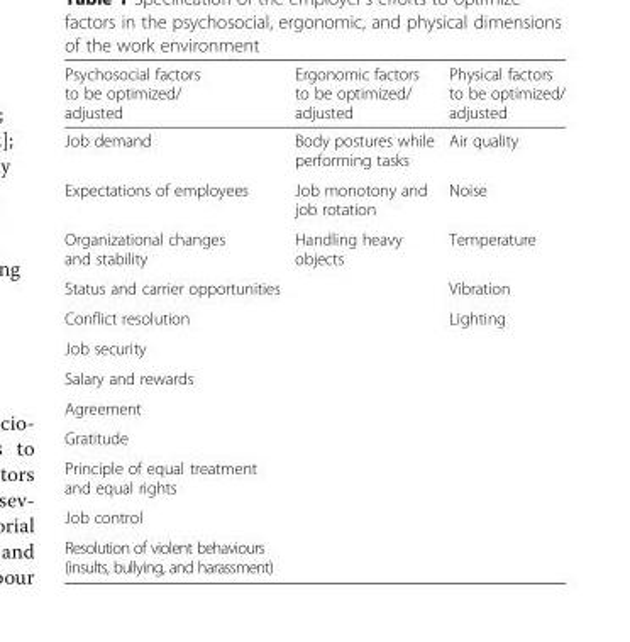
<table><thead><tr><td>Psychosocial factors to be optimized/ adjusted</td><td>Ergonomic factors to be optimized/ adjusted</td><td>Physical factors to be optimized/ adjusted</td></tr></thead><tbody><tr><td>Job demand</td><td>Body postures while performing tasks</td><td>Air quality</td></tr><tr><td>Expectations of employees</td><td>Job monotony and job rotation</td><td>Noise</td></tr><tr><td>Organizational changes and stability</td><td>Handling heavy objects</td><td>Temperature</td></tr><tr><td>Status and carrier opportunities</td><td></td><td>Vibration</td></tr><tr><td>Conflict resolution</td><td></td><td>Lighting</td></tr><tr><td colspan="3">Job security</td></tr><tr><td colspan="3">Salary and rewards</td></tr><tr><td colspan="3">Agreement</td></tr><tr><td colspan="3">Gratitude</td></tr><tr><td colspan="3">Principle of equal treatment and equal rights</td></tr><tr><td colspan="3">Job control</td></tr><tr><td>Resolution of violent behaviours (insults, bullying, and harassment)</td><td></td><td></td></tr></tbody></table>